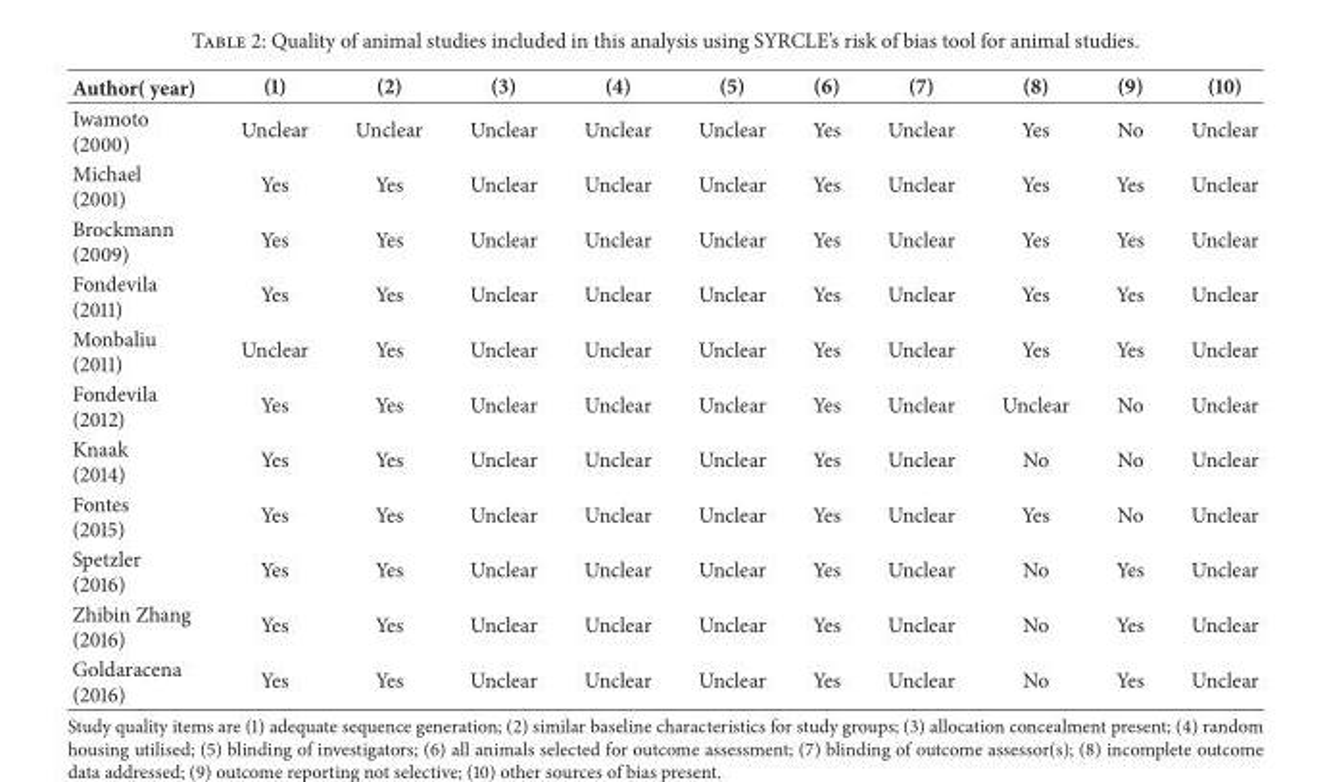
<table><thead><tr><td>Author( year)</td><td>(1)</td><td>(2)</td><td>(3)</td><td>(4)</td><td>(5)</td><td>(6)</td><td>(7)</td><td>(8)</td><td>(9)</td><td>(10)</td></tr></thead><tbody><tr><td>Iwamoto (2000)</td><td>Unclear</td><td>Unclear</td><td>Unclear</td><td>Unclear</td><td>Unclear</td><td>Yes</td><td>Unclear</td><td>Yes</td><td>No</td><td>Unclear</td></tr><tr><td>Michael (2001)</td><td>Yes</td><td>Yes</td><td>Unclear</td><td>Unclear</td><td>Unclear</td><td>Yes</td><td>Unclear</td><td>Yes</td><td>Yes</td><td>Unclear</td></tr><tr><td>Brockmann (2009)</td><td>Yes</td><td>Yes</td><td>Unclear</td><td>Unclear</td><td>Unclear</td><td>Yes</td><td>Unclear</td><td>Yes</td><td>Yes</td><td>Unclear</td></tr><tr><td>Fondevila (2011)</td><td>Yes</td><td>Yes</td><td>Unclear</td><td>Unclear</td><td>Unclear</td><td>Yes</td><td>Unclear</td><td>Yes</td><td>Yes</td><td>Unclear</td></tr><tr><td>Monbaliu (2011)</td><td>Unclear</td><td>Yes</td><td>Unclear</td><td>Unclear</td><td>Unclear</td><td>Yes</td><td>Unclear</td><td>Yes</td><td>Yes</td><td>Unclear</td></tr><tr><td>Fondevila (2012)</td><td>Yes</td><td>Yes</td><td>Unclear</td><td>Unclear</td><td>Unclear</td><td>Yes</td><td>Unclear</td><td>Unclear</td><td>No</td><td>Unclear</td></tr><tr><td>Knaak (2014)</td><td>Yes</td><td>Yes</td><td>Unclear</td><td>Unclear</td><td>Unclear</td><td>Yes</td><td>Unclear</td><td>No</td><td>No</td><td>Unclear</td></tr><tr><td>Fontes (2015)</td><td>Yes</td><td>Yes</td><td>Unclear</td><td>Unclear</td><td>Unclear</td><td>Yes</td><td>Unclear</td><td>Yes</td><td>No</td><td>Unclear</td></tr><tr><td>Spetzler (2016)</td><td>Yes</td><td>Yes</td><td>Unclear</td><td>Unclear</td><td>Unclear</td><td>Yes</td><td>Unclear</td><td>No</td><td>Yes</td><td>Unclear</td></tr><tr><td>Zhibin Zhang (2016)</td><td>Yes</td><td>Yes</td><td>Unclear</td><td>Unclear</td><td>Unclear</td><td>Yes</td><td>Unclear</td><td>No</td><td>Yes</td><td>Unclear</td></tr><tr><td>Goldaracena (2016)</td><td>Yes</td><td>Yes</td><td>Unclear</td><td>Unclear</td><td>Unclear</td><td>Yes</td><td>Unclear</td><td>No</td><td>Yes</td><td>Unclear</td></tr></tbody></table>